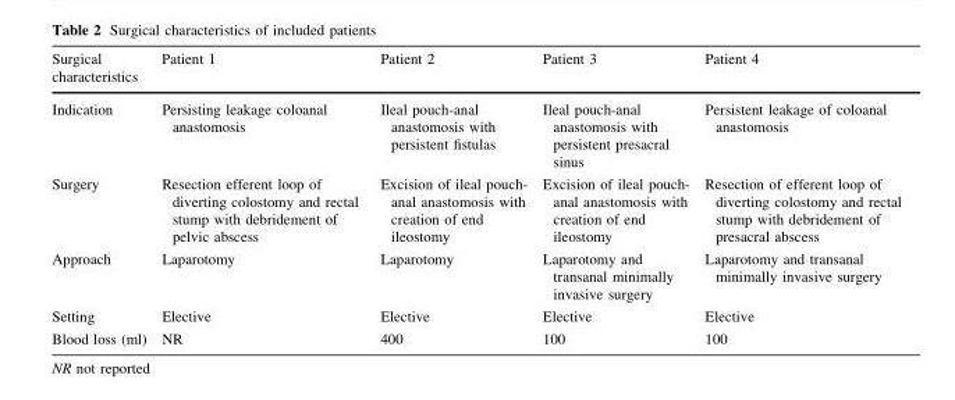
<table><thead><tr><td>Surgical characteristics</td><td>Patient 1</td><td>Patient 2</td><td>Patient 3</td><td>Patient 4</td></tr></thead><tbody><tr><td>Indication</td><td>Persisting leakage coloanal anastomosis</td><td>Ileal pouch-anal anastomosis with persistent fistulas</td><td>Ileal pouch-anal anastomosis with persistent presacral sinus</td><td>Persistent leakage of coloanal anastomosis</td></tr><tr><td>Surgery</td><td>Resection efferent loop of diverting colostomy and rectal stump with debridement of pelvic abscess</td><td>Excision of ileal pouch- anal anastomosis with creation of end ileostomy</td><td>Excision of ileal pouch- anal anastomosis with creation of end ileostomy</td><td>Resection of efferent loop of diverting colostomy and rectal stump with debridement of presacral abscess</td></tr><tr><td>Approach</td><td>Laparotomy</td><td>Laparotomy</td><td>Laparotomy and transanal minimally invasive surgery</td><td>Laparotomy and transanal minimally invasive surgery</td></tr><tr><td>Setting</td><td>Elective</td><td>Elective</td><td>Elective</td><td>Elective</td></tr><tr><td>Blood loss (ml)</td><td>NR</td><td>400</td><td>100</td><td>100</td></tr></tbody></table>